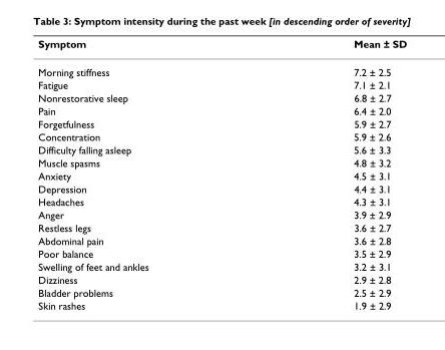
<table><thead><tr><td>Symptom</td><td>Mean ± SD</td></tr></thead><tbody><tr><td>Morning stiffness</td><td>7.2 ± 2.5</td></tr><tr><td>Fatigue</td><td>7.1 ± 2.1</td></tr><tr><td>Nonrestorative sleep</td><td>6.8 ± 2.7</td></tr><tr><td>Pain</td><td>6.4 ± 2.0</td></tr><tr><td>Forgetfulness</td><td>5.9 ± 2.7</td></tr><tr><td>Concentration</td><td>5.9 ± 2.6</td></tr><tr><td>Difficulty falling asleep</td><td>5.6 ± 3.3</td></tr><tr><td>Muscle spasms</td><td>4.8 ± 3.2</td></tr><tr><td>Anxiety</td><td>4.5 ± 3.1</td></tr><tr><td>Depression</td><td>4.4 ± 3.1</td></tr><tr><td>Headaches</td><td>4.3 ± 3.1</td></tr><tr><td>Anger</td><td>3.9 ± 2.9</td></tr><tr><td>Restless legs</td><td>3.6 ± 2.7</td></tr><tr><td>Abdominal pain</td><td>3.6 ± 2.8</td></tr><tr><td>Poor balance</td><td>3.5 ± 2.9</td></tr><tr><td>Swelling of feet and ankles</td><td>3.2 ± 3.1</td></tr><tr><td>Dizziness</td><td>2.9 ± 2.8</td></tr><tr><td>Bladder problems</td><td>2.5 ± 2.9</td></tr><tr><td>Skin rashes</td><td>1.9 ± 2.9</td></tr></tbody></table>